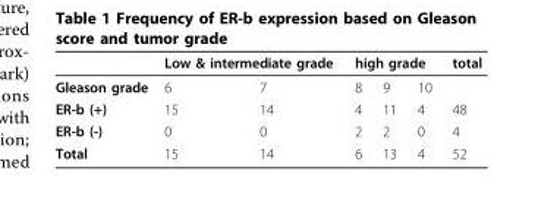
<table><thead><tr><td rowspan="2">Gleason grade</td><td colspan="2">Low &amp; intermediate grade</td><td colspan="3">high grade</td><td rowspan="2">total</td></tr><tr><td>6</td><td>7</td><td>8</td><td>9</td><td>10</td></tr></thead><tbody><tr><td>ER-b (+)</td><td>15</td><td>14</td><td>4</td><td>11</td><td>4</td><td>48</td></tr><tr><td>ER-b (-)</td><td>0</td><td>0</td><td>2</td><td>2</td><td>0</td><td>4</td></tr><tr><td>Total</td><td>15</td><td>14</td><td>6</td><td>13</td><td>4</td><td>52</td></tr></tbody></table>